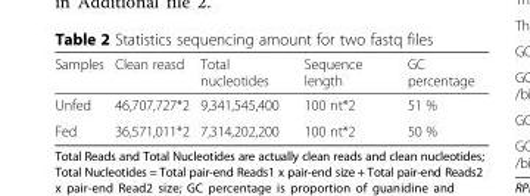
<table><thead><tr><td>Samples</td><td>Clean reasd</td><td>Total nucleotides</td><td>Sequence length</td><td>GC percentage</td></tr></thead><tbody><tr><td>Unfed</td><td>46,707,727*2</td><td>9,341,545,400</td><td>100 nt*2</td><td>51 %</td></tr><tr><td>Fed</td><td>36,571,011*2</td><td>7,314,202,200</td><td>100 nt*2</td><td>50 %</td></tr></tbody></table>